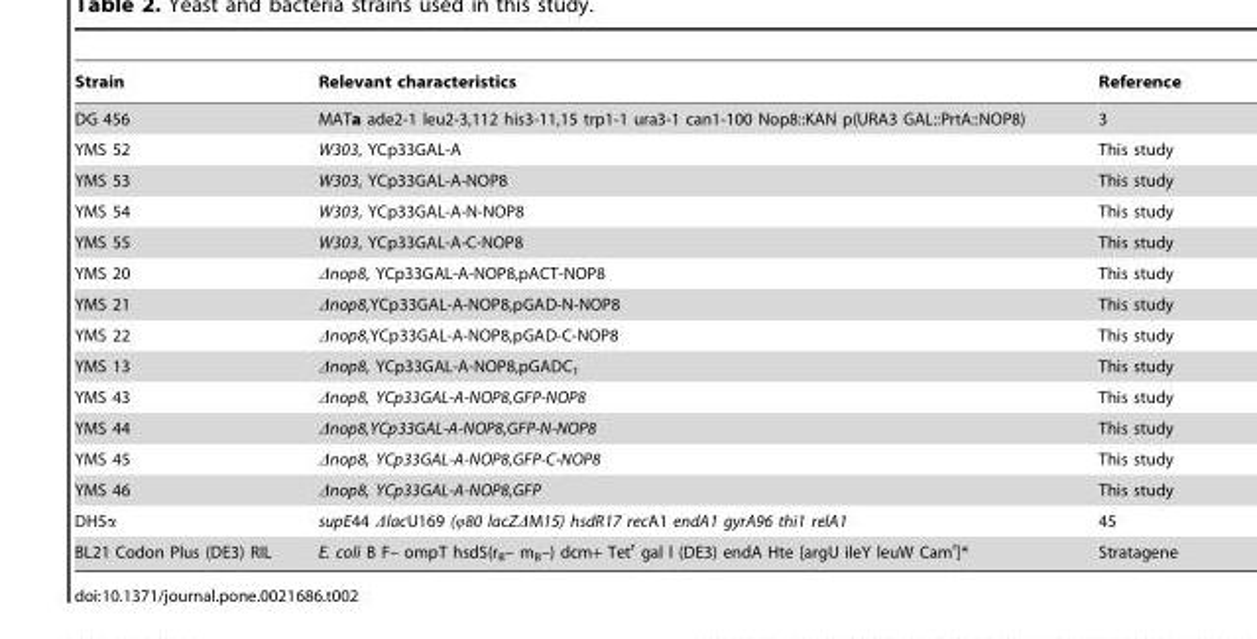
<table><thead><tr><td>Strain</td><td>Relevant characteristics</td><td>Reference</td></tr></thead><tbody><tr><td>DG 456</td><td>MATa ade2-1 leu2-3,112 his3-11,15 trp1-1 ura3-1 can1-100 Nop8::KAN p(URA3 GAL::PrtA::NOP8)</td><td>3</td></tr><tr><td>YMS 52</td><td>W303, YCp33GAL-A</td><td>This study</td></tr><tr><td>YMS 53</td><td>W303, YCp33GAL-A-NOP8</td><td>This study</td></tr><tr><td>YMS 54</td><td>W303, YCp33GAL-A-N-NOP8</td><td>This study</td></tr><tr><td>YMS 55</td><td>W303, YCp33GAL-A-C-NOP8</td><td>This study</td></tr><tr><td>YMS 20</td><td>Δnop8, YCp33GAL-A-NOP8,pACT-NOP8</td><td>This study</td></tr><tr><td>YMS 21</td><td>Δnop8,YCp33GAL-A-NOP8,pGAD-N-NOP8</td><td>This study</td></tr><tr><td>YMS 22</td><td>Δnop8,YCp33GAL-A-NOP8,pGAD-C-NOP8</td><td>This study</td></tr><tr><td>YMS 13</td><td>Δnop8, YCp33GAL-A-NOP8,pGADC<sub>1</sub></td><td>This study</td></tr><tr><td>YMS 43</td><td>Δnop8, YCp33GAL-A-NOP8,GFP-NOP8</td><td>This study</td></tr><tr><td>YMS 44</td><td>Δnop8,YCp33GAL-A-NOP8,GFP-N-NOP8</td><td>This study</td></tr><tr><td>YMS 45</td><td>Δnop8, YCp33GAL-A-NOP8,GFP-C-NOP8</td><td>This study</td></tr><tr><td>YMS 46</td><td>Δnop8, YCp33GAL-A-NOP8,GFP</td><td>This study</td></tr><tr><td>DH5α</td><td>supE44 ΔlacU169 (ϕ80 lacZΔM15) hsdR17 recA1 endA1 gyrA96 thi1 relA1</td><td>45</td></tr><tr><td>BL21 Codon Plus (DE3) RIL</td><td>E. coli B F– ompT hsdS(r<sub>B</sub>– m<sub>B</sub>–) dcm+ Tet<sup>r</sup> gal l (DE3) endA Hte [argU ileY leuW Cam<sup>r</sup>]*</td><td>Stratagene</td></tr></tbody></table>